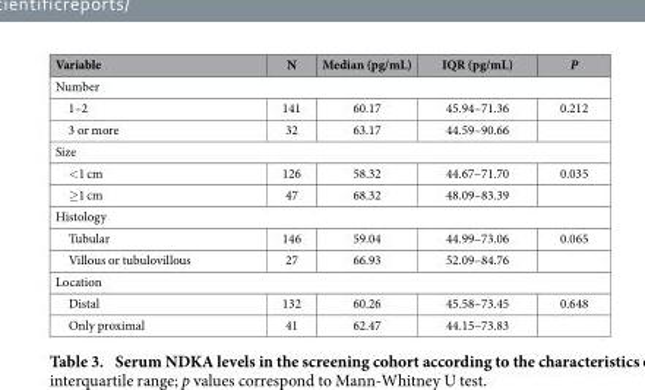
<table><thead><tr><td>Variable</td><td>N</td><td>Median (pg/mL)</td><td>IQR (pg/mL)</td><td>P</td></tr></thead><tbody><tr><td colspan="5">Number</td></tr><tr><td>1–2</td><td>141</td><td>60.17</td><td>45.94–71.36</td><td>0.212</td></tr><tr><td>3 or more</td><td>32</td><td>63.17</td><td>44.59–90.66</td><td></td></tr><tr><td colspan="5">Size</td></tr><tr><td>&lt; 1 cm</td><td>126</td><td>58.32</td><td>44.67–71.70</td><td>0.035</td></tr><tr><td>≥ 1 cm</td><td>47</td><td>68.32</td><td>48.09–83.39</td><td></td></tr><tr><td colspan="5">Histology</td></tr><tr><td>Tubular</td><td>146</td><td>59.04</td><td>44.99–73.06</td><td>0.065</td></tr><tr><td>Villous or tubulovillous</td><td>27</td><td>66.93</td><td>52.09–84.76</td><td></td></tr><tr><td colspan="5">Location</td></tr><tr><td>Distal</td><td>132</td><td>60.26</td><td>45.58–73.45</td><td>0.648</td></tr><tr><td>Only proximal</td><td>41</td><td>62.47</td><td>44.15–73.83</td><td></td></tr></tbody></table>